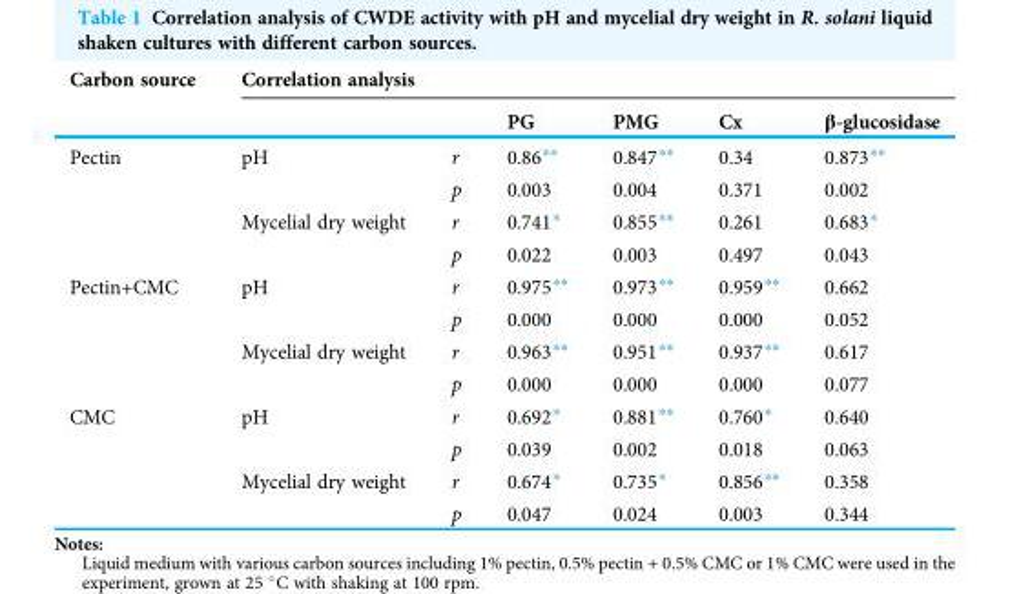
<table><thead><tr><td rowspan="2">Carbon source</td><td colspan="6">Correlation analysis</td></tr><tr><td></td><td></td><td>PG</td><td>PMG</td><td>Cx</td><td>β-glucosidase</td></tr></thead><tbody><tr><td rowspan="4">Pectin</td><td rowspan="2">pH</td><td>r</td><td>0.86**</td><td>0.847**</td><td>0.34</td><td>0.873**</td></tr><tr><td>p</td><td>0.003</td><td>0.004</td><td>0.371</td><td>0.002</td></tr><tr><td rowspan="2">Mycelial dry weight</td><td>r</td><td>0.741*</td><td>0.855**</td><td>0.261</td><td>0.683*</td></tr><tr><td>p</td><td>0.022</td><td>0.003</td><td>0.497</td><td>0.043</td></tr><tr><td rowspan="4">Pectin+CMC</td><td rowspan="2">pH</td><td>r</td><td>0.975**</td><td>0.973**</td><td>0.959**</td><td>0.662</td></tr><tr><td>p</td><td>0.000</td><td>0.000</td><td>0.000</td><td>0.052</td></tr><tr><td rowspan="2">Mycelial dry weight</td><td>r</td><td>0.963**</td><td>0.951**</td><td>0.937**</td><td>0.617</td></tr><tr><td>p</td><td>0.000</td><td>0.000</td><td>0.000</td><td>0.077</td></tr><tr><td rowspan="4">CMC</td><td rowspan="2">pH</td><td>r</td><td>0.692*</td><td>0.881**</td><td>0.760*</td><td>0.640</td></tr><tr><td>p</td><td>0.039</td><td>0.002</td><td>0.018</td><td>0.063</td></tr><tr><td rowspan="2">Mycelial dry weight</td><td>r</td><td>0.674*</td><td>0.735*</td><td>0.856**</td><td>0.358</td></tr><tr><td>p</td><td>0.047</td><td>0.024</td><td>0.003</td><td>0.344</td></tr></tbody></table>